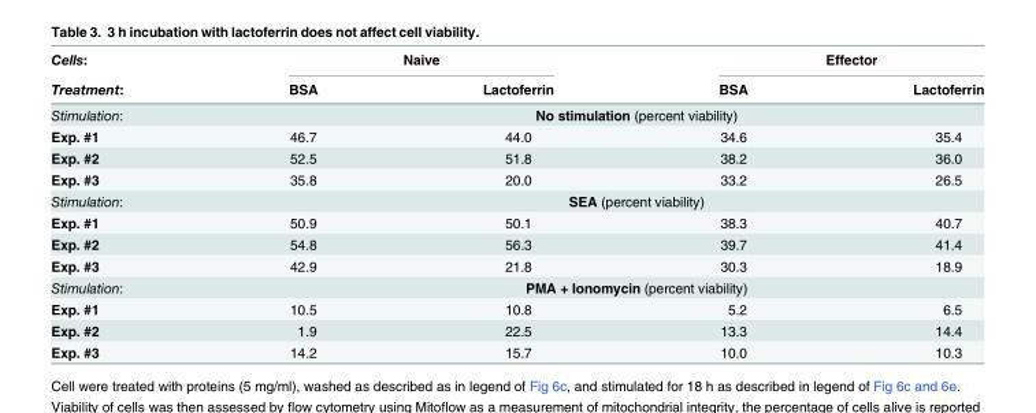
<table><thead><tr><td rowspan="2">Cells: Treatment:</td><td colspan="2">Naive</td><td colspan="2">Effector</td></tr><tr><td>BSA</td><td>Lactoferrin</td><td>BSA</td><td>Lactoferrin</td></tr></thead><tbody><tr><td>Stimulation:</td><td colspan="4">No stimulation (percent viability)</td></tr><tr><td>Exp. #1</td><td>46.7</td><td>44.0</td><td>34.6</td><td>35.4</td></tr><tr><td>Exp. #2</td><td>52.5</td><td>51.8</td><td>38.2</td><td>36.0</td></tr><tr><td>Exp. #3</td><td>35.8</td><td>20.0</td><td>33.2</td><td>26.5</td></tr><tr><td>Stimulation:</td><td colspan="4">SEA (percent viability)</td></tr><tr><td>Exp. #1</td><td>50.9</td><td>50.1</td><td>38.3</td><td>40.7</td></tr><tr><td>Exp. #2</td><td>54.8</td><td>56.3</td><td>39.7</td><td>41.4</td></tr><tr><td>Exp. #3</td><td>42.9</td><td>21.8</td><td>30.3</td><td>18.9</td></tr><tr><td>Stimulation:</td><td colspan="4">PMA + Ionomycin (percent viability)</td></tr><tr><td>Exp. #1</td><td>10.5</td><td>10.8</td><td>5.2</td><td>6.5</td></tr><tr><td>Exp. #2</td><td>1.9</td><td>22.5</td><td>13.3</td><td>14.4</td></tr><tr><td>Exp. #3</td><td>14.2</td><td>15.7</td><td>10.0</td><td>10.3</td></tr></tbody></table>